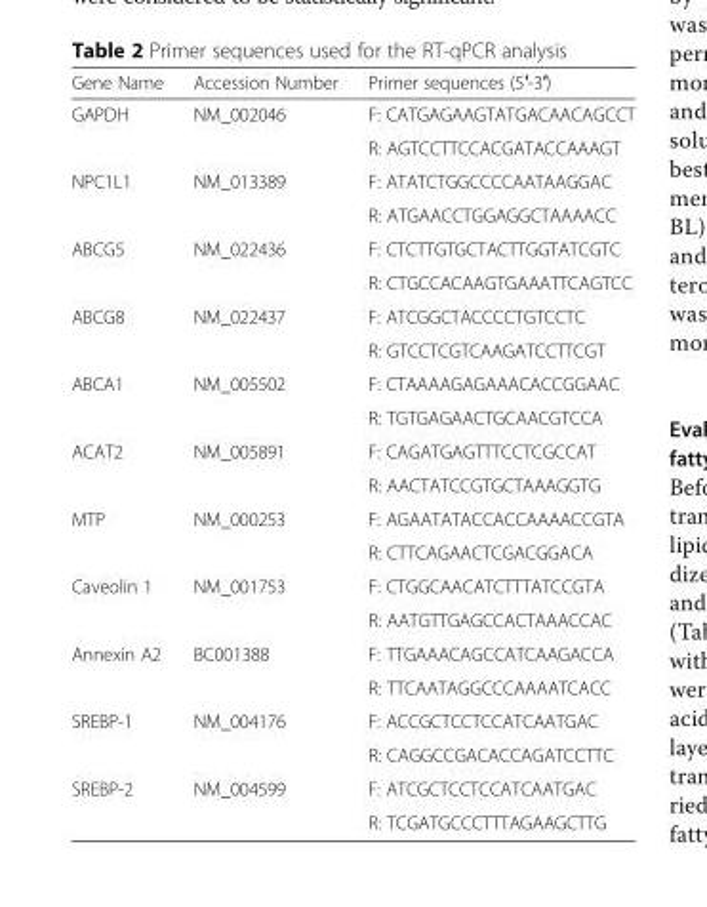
<table><thead><tr><td>Gene Name</td><td>Accession Number</td><td>Primer sequences (5′-3′)</td></tr></thead><tbody><tr><td rowspan="2">GAPDH</td><td rowspan="2">NM_002046</td><td>F: CATGAGAAGTATGACAACAGCCT</td></tr><tr><td>R: AGTCCTTCCACGATACCAAAGT</td></tr><tr><td rowspan="2">NPC1L1</td><td rowspan="2">NM_013389</td><td>F: ATATCTGGCCCCAATAAGGAC</td></tr><tr><td>R: ATGAACCTGGAGGCTAAAACC</td></tr><tr><td rowspan="2">ABCG5</td><td rowspan="2">NM_022436</td><td>F: CTCTTGTGCTACTTGGTATCGTC</td></tr><tr><td>R: CTGCCACAAGTGAAATTCAGTCC</td></tr><tr><td rowspan="2">ABCG8</td><td rowspan="2">NM_022437</td><td>F: ATCGGCTACCCCTGTCCTC</td></tr><tr><td>R: GTCCTCGTCAAGATCCTTCGT</td></tr><tr><td rowspan="2">ABCA1</td><td rowspan="2">NM_005502</td><td>F: CTAAAAGAGAAACACCGGAAC</td></tr><tr><td>R: TGTGAGAACTGCAACGTCCA</td></tr><tr><td rowspan="2">ACAT2</td><td rowspan="2">NM_005891</td><td>F: CAGATGAGTTTCCTCGCCAT</td></tr><tr><td>R: AACTATCCGTGCTAAAGGTG</td></tr><tr><td rowspan="2">MTP</td><td rowspan="2">NM_000253</td><td>F: AGAATATACCACCAAAACCGTA</td></tr><tr><td>R: CTTCAGAACTCGACGGACA</td></tr><tr><td rowspan="2">Caveolin 1</td><td rowspan="2">NM_001753</td><td>F: CTGGCAACATCTTTATCCGTA</td></tr><tr><td>R: AATGTTGAGCCACTAAACCAC</td></tr><tr><td rowspan="2">Annexin A2</td><td rowspan="2">BC001388</td><td>F: TTGAAACAGCCATCAAGACCA</td></tr><tr><td>R: TTCAATAGGCCCAAAATCACC</td></tr><tr><td rowspan="2">SREBP-1</td><td rowspan="2">NM_004176</td><td>F: ACCGCTCCTCCATCAATGAC</td></tr><tr><td>R: CAGGCCGACACCAGATCCTTC</td></tr><tr><td rowspan="2">SREBP-2</td><td rowspan="2">NM_004599</td><td>F: ATCGCTCCTCCATCAATGAC</td></tr><tr><td>R: TCGATGCCCTTTAGAAGCTTG</td></tr></tbody></table>